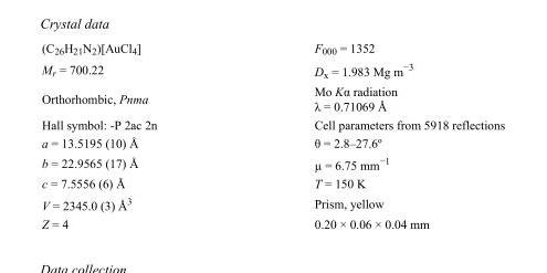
<table><tbody><tr><td>(C<sub>26</sub>H<sub>21</sub>N<sub>2</sub>)[AuCl<sub>4</sub>]</td><td>F000 = 1352</td></tr><tr><td>M<sub>r</sub> = 700.22</td><td>D<sub>x</sub> = 1.983 Mg m<sup>−3</sup></td></tr><tr><td>Orthorhombic, Pnma</td><td>Mo Kα radiation λ = 0.71069 Å</td></tr><tr><td>Hall symbol: -P 2ac 2n</td><td>Cell parameters from 5918 reflections</td></tr><tr><td>a = 13.5195 (10) Å</td><td>θ = 2.8–27.6º</td></tr><tr><td>b = 22.9565 (17) Å</td><td>µ = 6.75 mm<sup>−1</sup></td></tr><tr><td>c = 7.5556 (6) Å</td><td>T = 150 K</td></tr><tr><td>V = 2345.0 (3) Å<sup>3</sup></td><td>Prism, yellow</td></tr><tr><td>Z = 4</td><td>0.20 × 0.06 × 0.04 mm</td></tr></tbody></table>